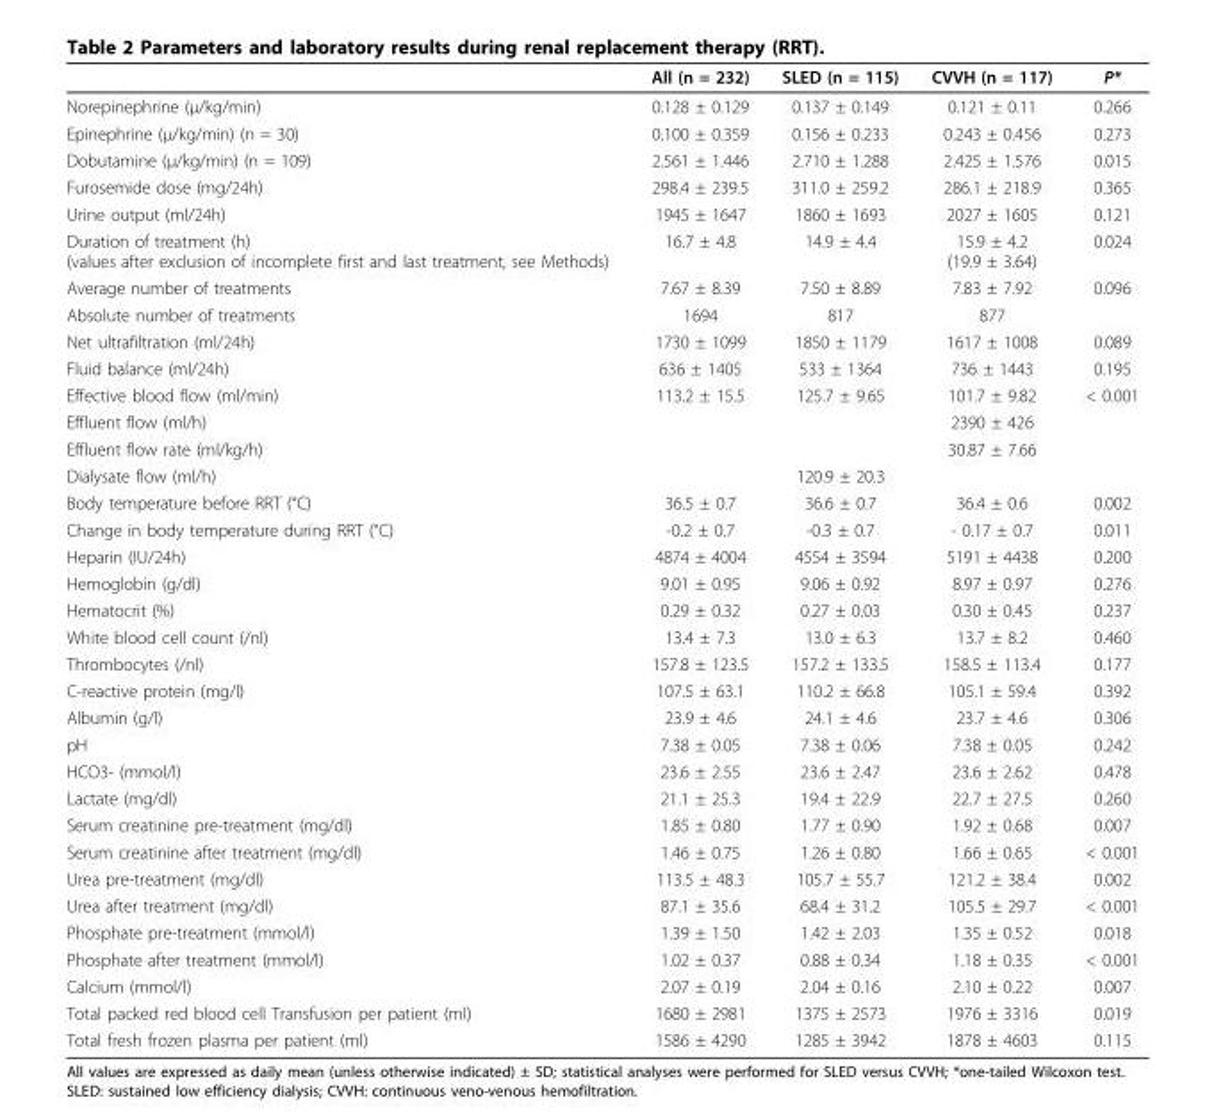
<table><thead><tr><td></td><td>All (n = 232)</td><td>SLED (n = 115)</td><td>CVVH (n = 117)</td><td>P*</td></tr></thead><tbody><tr><td>Norepinephrine (µ/kg/min)</td><td>0.128 ± 0.129</td><td>0.137 ± 0.149</td><td>0.121 ± 0.11</td><td>0.266</td></tr><tr><td>Epinephrine (µ/kg/min) (n = 30)</td><td>0.100 ± 0.359</td><td>0.156 ± 0.233</td><td>0.243 ± 0.456</td><td>0.273</td></tr><tr><td>Dobutamine (µ/kg/min) (n = 109)</td><td>2.561 ± 1.446</td><td>2.710 ± 1.288</td><td>2.425 ± 1.576</td><td>0.015</td></tr><tr><td>Furosemide dose (mg/24h)</td><td>298.4 ± 239.5</td><td>311.0 ± 259.2</td><td>286.1 ± 218.9</td><td>0.365</td></tr><tr><td>Urine output (ml/24h)</td><td>1945 ± 1647</td><td>1860 ± 1693</td><td>2027 ± 1605</td><td>0.121</td></tr><tr><td>Duration of treatment (h) (values after exclusion of incomplete first and last treatment, see Methods)</td><td>16.7 ± 4.8</td><td>14.9 ± 4.4</td><td>15.9 ± 4.2 (19.9 ± 3.64)</td><td>0.024</td></tr><tr><td>Average number of treatments</td><td>7.67 ± 8.39</td><td>7.50 ± 8.89</td><td>7.83 ± 7.92</td><td>0.096</td></tr><tr><td>Absolute number of treatments</td><td>1694</td><td>817</td><td>877</td><td></td></tr><tr><td>Net ultrafiltration (ml/24h)</td><td>1730 ± 1099</td><td>1850 ± 1179</td><td>1617 ± 1008</td><td>0.089</td></tr><tr><td>Fluid balance (ml/24h)</td><td>636 ± 1405</td><td>533 ± 1364</td><td>736 ± 1443</td><td>0.195</td></tr><tr><td>Effective blood flow (ml/min)</td><td>113.2 ± 15.5</td><td>125.7 ± 9.65</td><td>101.7 ± 9.82</td><td>&lt; 0.001</td></tr><tr><td>Effluent flow (ml/h)</td><td></td><td></td><td>2390 ± 426</td><td></td></tr><tr><td>Effluent flow rate (ml/kg/h)</td><td></td><td></td><td>30.87 ± 7.66</td><td></td></tr><tr><td>Dialysate flow (ml/h)</td><td></td><td>120.9 ± 20.3</td><td></td><td></td></tr><tr><td>Body temperature before RRT (°C)</td><td>36.5 ± 0.7</td><td>36.6 ± 0.7</td><td>36.4 ± 0.6</td><td>0.002</td></tr><tr><td>Change in body temperature during RRT (°C)</td><td>-0.2 ± 0.7</td><td>-0.3 ± 0.7</td><td>- 0.17 ± 0.7</td><td>0.011</td></tr><tr><td>Heparin (IU/24h)</td><td>4874 ± 4004</td><td>4554 ± 3594</td><td>5191 ± 4438</td><td>0.200</td></tr><tr><td>Hemoglobin (g/dl)</td><td>9.01 ± 0.95</td><td>9.06 ± 0.92</td><td>8.97 ± 0.97</td><td>0.276</td></tr><tr><td>Hematocrit (%)</td><td>0.29 ± 0.32</td><td>0.27 ± 0.03</td><td>0.30 ± 0.45</td><td>0.237</td></tr><tr><td>White blood cell count (/nl)</td><td>13.4 ± 7.3</td><td>13.0 ± 6.3</td><td>13.7 ± 8.2</td><td>0.460</td></tr><tr><td>Thrombocytes (/nl)</td><td>157.8 ± 123.5</td><td>157.2 ± 133.5</td><td>158.5 ± 113.4</td><td>0.177</td></tr><tr><td>C-reactive protein (mg/l)</td><td>107.5 ± 63.1</td><td>110.2 ± 66.8</td><td>105.1 ± 59.4</td><td>0.392</td></tr><tr><td>Albumin (g/l)</td><td>23.9 ± 4.6</td><td>24.1 ± 4.6</td><td>23.7 ± 4.6</td><td>0.306</td></tr><tr><td>pH</td><td>7.38 ± 0.05</td><td>7.38 ± 0.06</td><td>7.38 ± 0.05</td><td>0.242</td></tr><tr><td>HCO3- (mmol/l)</td><td>23.6 ± 2.55</td><td>23.6 ± 2.47</td><td>23.6 ± 2.62</td><td>0.478</td></tr><tr><td>Lactate (mg/dl)</td><td>21.1 ± 25.3</td><td>19.4 ± 22.9</td><td>22.7 ± 27.5</td><td>0.260</td></tr><tr><td>Serum creatinine pre-treatment (mg/dl)</td><td>1.85 ± 0.80</td><td>1.77 ± 0.90</td><td>1.92 ± 0.68</td><td>0.007</td></tr><tr><td>Serum creatinine after treatment (mg/dl)</td><td>1.46 ± 0.75</td><td>1.26 ± 0.80</td><td>1.66 ± 0.65</td><td>&lt; 0.001</td></tr><tr><td>Urea pre-treatment (mg/dl)</td><td>113.5 ± 48.3</td><td>105.7 ± 55.7</td><td>121.2 ± 38.4</td><td>0.002</td></tr><tr><td>Urea after treatment (mg/dl)</td><td>87.1 ± 35.6</td><td>68.4 ± 31.2</td><td>105.5 ± 29.7</td><td>&lt; 0.001</td></tr><tr><td>Phosphate pre-treatment (mmol/l)</td><td>1.39 ± 1.50</td><td>1.42 ± 2.03</td><td>1.35 ± 0.52</td><td>0.018</td></tr><tr><td>Phosphate after treatment (mmol/l)</td><td>1.02 ± 0.37</td><td>0.88 ± 0.34</td><td>1.18 ± 0.35</td><td>&lt; 0.001</td></tr><tr><td>Calcium (mmol/l)</td><td>2.07 ± 0.19</td><td>2.04 ± 0.16</td><td>2.10 ± 0.22</td><td>0.007</td></tr><tr><td>Total packed red blood cell Transfusion per patient (ml)</td><td>1680 ± 2981</td><td>1375 ± 2573</td><td>1976 ± 3316</td><td>0.019</td></tr><tr><td>Total fresh frozen plasma per patient (ml)</td><td>1586 ± 4290</td><td>1285 ± 3942</td><td>1878 ± 4603</td><td>0.115</td></tr></tbody></table>